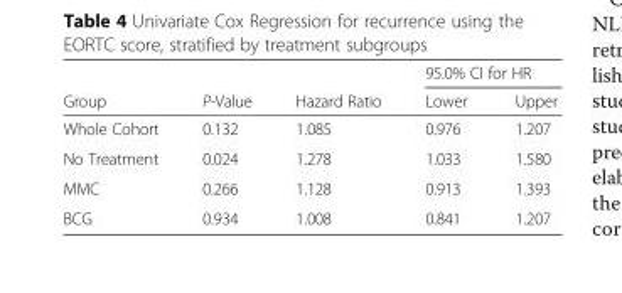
<table><thead><tr><td rowspan="2">Group</td><td rowspan="2">P-Value</td><td rowspan="2">Hazard Ratio</td><td colspan="2">95.0% CI for HR</td></tr><tr><td>Lower</td><td>Upper</td></tr></thead><tbody><tr><td>Whole Cohort</td><td>0.132</td><td>1.085</td><td>0.976</td><td>1.207</td></tr><tr><td>No Treatment</td><td>0.024</td><td>1.278</td><td>1.033</td><td>1.580</td></tr><tr><td>MMC</td><td>0.266</td><td>1.128</td><td>0.913</td><td>1.393</td></tr><tr><td>BCG</td><td>0.934</td><td>1.008</td><td>0.841</td><td>1.207</td></tr></tbody></table>